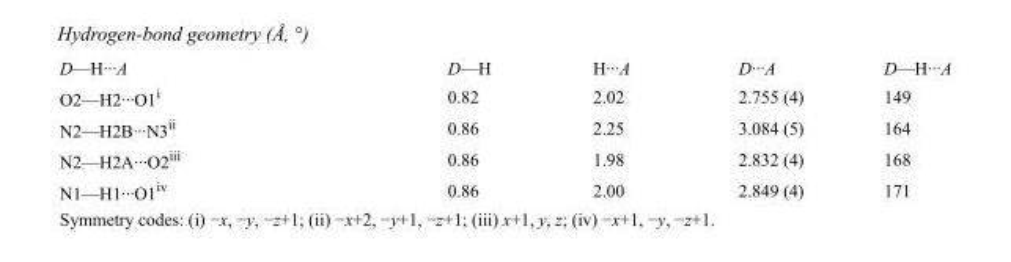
<table><tbody><tr><td>D—H···A</td><td>D—H</td><td>H···A</td><td>D···A</td><td>D—H···A</td></tr><tr><td>O2—H2···O1<sup>i</sup></td><td>0.82</td><td>2.02</td><td>2.755 (4)</td><td>149</td></tr><tr><td>N2—H2B···N3<sup>ii</sup></td><td>0.86</td><td>2.25</td><td>3.084 (5)</td><td>164</td></tr><tr><td>N2—H2A···O2<sup>iii</sup></td><td>0.86</td><td>1.98</td><td>2.832 (4)</td><td>168</td></tr><tr><td>N1—H1···O1<sup>iv</sup></td><td>0.86</td><td>2.00</td><td>2.849 (4)</td><td>171</td></tr></tbody></table>